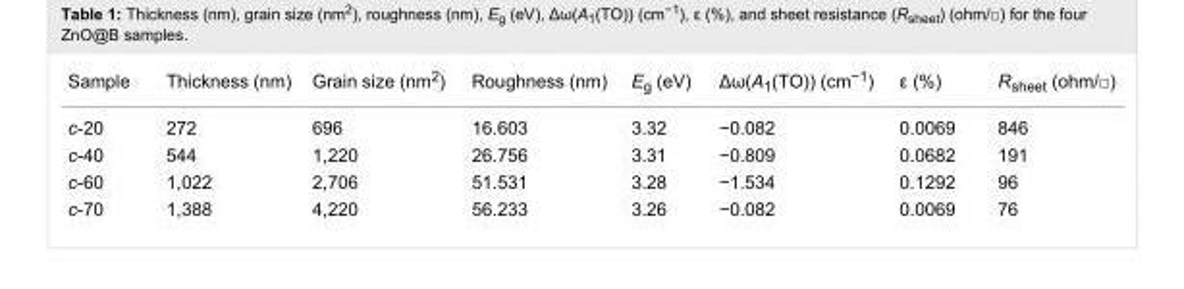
<table><tbody><tr><td>Sample</td><td>Thickness (nm)</td><td>Grain size (nm<sup>2</sup>)</td><td>Roughness (nm)</td><td>E<sub>g</sub> (eV)</td><td>Δω(A<sub>1</sub>(TO)) (cm<sup>−1</sup>)</td><td>ε (%)</td><td>R<sub>sheet</sub> (ohm/□)</td></tr><tr><td>c-20</td><td>272</td><td>696</td><td>16.603</td><td>3.32</td><td>−0.082</td><td>0.0069</td><td>846</td></tr><tr><td>c-40</td><td>544</td><td>1,220</td><td>26.756</td><td>3.31</td><td>−0.809</td><td>0.0682</td><td>191</td></tr><tr><td>c-60</td><td>1,022</td><td>2,706</td><td>51.531</td><td>3.28</td><td>−1.534</td><td>0.1292</td><td>96</td></tr><tr><td>c-70</td><td>1,388</td><td>4,220</td><td>56.233</td><td>3.26</td><td>−0.082</td><td>0.0069</td><td>76</td></tr></tbody></table>